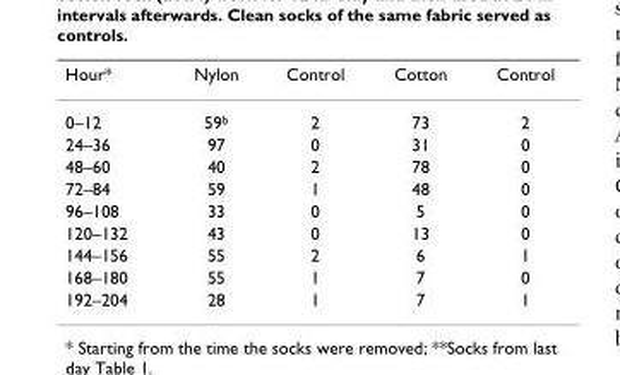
<table><thead><tr><td>Hour*</td><td>Nylon</td><td>Control</td><td>Cotton</td><td>Control</td></tr></thead><tbody><tr><td>0–12</td><td>59<sup>b</sup></td><td>2</td><td>73</td><td>2</td></tr><tr><td>24–36</td><td>97</td><td>0</td><td>31</td><td>0</td></tr><tr><td>48–60</td><td>40</td><td>2</td><td>78</td><td>0</td></tr><tr><td>72–84</td><td>59</td><td>1</td><td>48</td><td>0</td></tr><tr><td>96–108</td><td>33</td><td>0</td><td>5</td><td>0</td></tr><tr><td>120–132</td><td>43</td><td>0</td><td>13</td><td>0</td></tr><tr><td>144–156</td><td>55</td><td>2</td><td>6</td><td>1</td></tr><tr><td>168–180</td><td>55</td><td>1</td><td>7</td><td>0</td></tr><tr><td>192–204</td><td>28</td><td>1</td><td>7</td><td>1</td></tr></tbody></table>